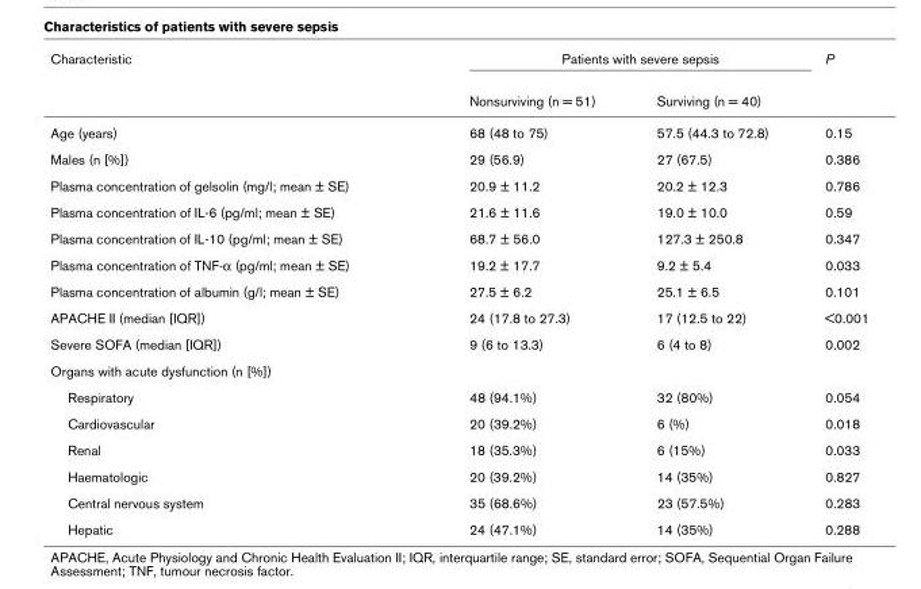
<table><thead><tr><td rowspan="2">Characteristic</td><td colspan="2">Patients with severe sepsis</td><td rowspan="2">P</td></tr><tr><td>Nonsurviving (n = 51)</td><td>Surviving (n = 40)</td></tr></thead><tbody><tr><td>Age (years)</td><td>68 (48 to 75)</td><td>57.5 (44.3 to 72.8)</td><td>0.15</td></tr><tr><td>Males (n [%])</td><td>29 (56.9)</td><td>27 (67.5)</td><td>0.386</td></tr><tr><td>Plasma concentration of gelsolin (mg/l; mean ± SE)</td><td>20.9 ± 11.2</td><td>20.2 ± 12.3</td><td>0.786</td></tr><tr><td>Plasma concentration of IL-6 (pg/ml; mean ± SE)</td><td>21.6 ± 11.6</td><td>19.0 ± 10.0</td><td>0.59</td></tr><tr><td>Plasma concentration of IL-10 (pg/ml; mean ± SE)</td><td>68.7 ± 56.0</td><td>127.3 ± 250.8</td><td>0.347</td></tr><tr><td>Plasma concentration of TNF-α (pg/ml; mean ± SE)</td><td>19.2 ± 17.7</td><td>9.2 ± 5.4</td><td>0.033</td></tr><tr><td>Plasma concentration of albumin (g/l; mean ± SE)</td><td>27.5 ± 6.2</td><td>25.1 ± 6.5</td><td>0.101</td></tr><tr><td>APACHE II (median [IQR])</td><td>24 (17.8 to 27.3)</td><td>17 (12.5 to 22)</td><td>&lt;0.001</td></tr><tr><td>Severe SOFA (median [IQR])</td><td>9 (6 to 13.3)</td><td>6 (4 to 8)</td><td>0.002</td></tr><tr><td colspan="4">Organs with acute dysfunction (n [%])</td></tr><tr><td>Respiratory</td><td>48 (94.1%)</td><td>32 (80%)</td><td>0.054</td></tr><tr><td>Cardiovascular</td><td>20 (39.2%)</td><td>6 (%)</td><td>0.018</td></tr><tr><td>Renal</td><td>18 (35.3%)</td><td>6 (15%)</td><td>0.033</td></tr><tr><td>Haematologic</td><td>20 (39.2%)</td><td>14 (35%)</td><td>0.827</td></tr><tr><td>Central nervous system</td><td>35 (68.6%)</td><td>23 (57.5%)</td><td>0.283</td></tr><tr><td>Hepatic</td><td>24 (47.1%)</td><td>14 (35%)</td><td>0.288</td></tr></tbody></table>